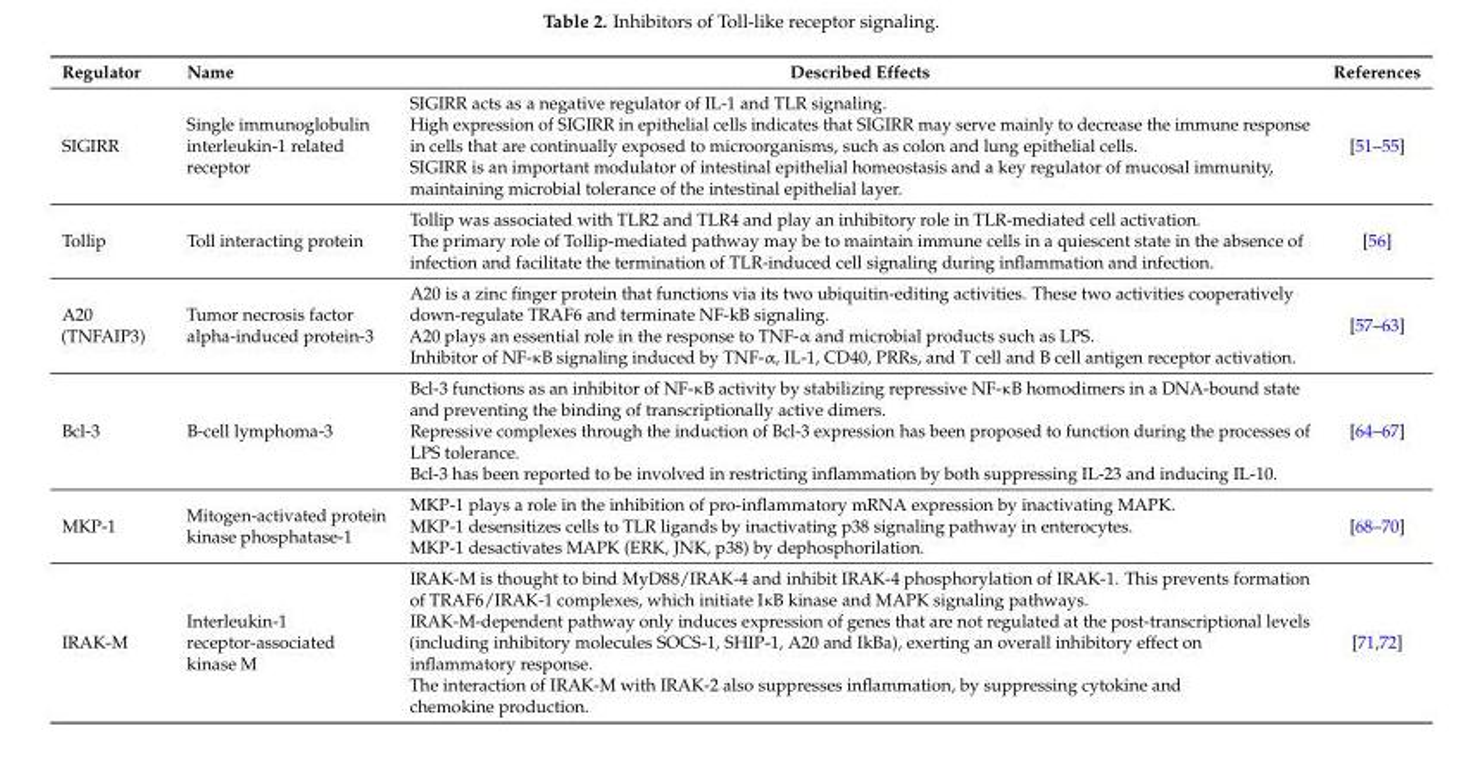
<table><thead><tr><td>Regulator</td><td>Name</td><td>Described Effects</td><td>References</td></tr></thead><tbody><tr><td>SIGIRR</td><td>Single immunoglobulin interleukin-1 related receptor</td><td>SIGIRR acts as a negative regulator of IL-1 and TLR signaling. High expression of SIGIRR in epithelial cells indicates that SIGIRR may serve mainly to decrease the immune response in cells that are continually exposed to microorganisms, such as colon and lung epithelial cells. SIGIRR is an important modulator of intestinal epithelial homeostasis and a key regulator of mucosal immunity, maintaining microbial tolerance of the intestinal epithelial layer.</td><td>[51–55]</td></tr><tr><td>Tollip</td><td>Toll interacting protein</td><td>Tollip was associated with TLR2 and TLR4 and play an inhibitory role in TLR-mediated cell activation. The primary role of Tollip-mediated pathway may be to maintain immune cells in a quiescent state in the absence of infection and facilitate the termination of TLR-induced cell signaling during inflammation and infection.</td><td>[56]</td></tr><tr><td>A20 (TNFAIP3)</td><td>Tumor necrosis factor alpha-induced protein-3</td><td>A20 is a zinc finger protein that functions via its two ubiquitin-editing activities. These two activities cooperatively down-regulate TRAF6 and terminate NF-kB signaling. A20 plays an essential role in the response to TNF-α and microbial products such as LPS. Inhibitor of NF-κB signaling induced by TNF-α, IL-1, CD40, PRRs, and T cell and B cell antigen receptor activation.</td><td>[57–63]</td></tr><tr><td>Bcl-3</td><td>B-cell lymphoma-3</td><td>Bcl-3 functions as an inhibitor of NF-κB activity by stabilizing repressive NF-κB homodimers in a DNA-bound state and preventing the binding of transcriptionally active dimers. Repressive complexes through the induction of Bcl-3 expression has been proposed to function during the processes of LPS tolerance. Bcl-3 has been reported to be involved in restricting inflammation by both suppressing IL-23 and inducing IL-10.</td><td>[64–67]</td></tr><tr><td>MKP-1</td><td>Mitogen-activated protein kinase phosphatase-1</td><td>MKP-1 plays a role in the inhibition of pro-inflammatory mRNA expression by inactivating MAPK. MKP-1 desensitizes cells to TLR ligands by inactivating p38 signaling pathway in enterocytes. MKP-1 desactivates MAPK (ERK, JNK, p38) by dephosphorilation.</td><td>[68–70]</td></tr><tr><td>IRAK-M</td><td>Interleukin-1 receptor-associated kinase M</td><td>IRAK-M is thought to bind MyD88/IRAK-4 and inhibit IRAK-4 phosphorylation of IRAK-1. This prevents formation of TRAF6/IRAK-1 complexes, which initiate IκB kinase and MAPK signaling pathways. IRAK-M-dependent pathway only induces expression of genes that are not regulated at the post-transcriptional levels (including inhibitory molecules SOCS-1, SHIP-1, A20 and IkBa), exerting an overall inhibitory effect on inflammatory response. The interaction of IRAK-M with IRAK-2 also suppresses inflammation, by suppressing cytokine and chemokine production.</td><td>[71,72]</td></tr></tbody></table>